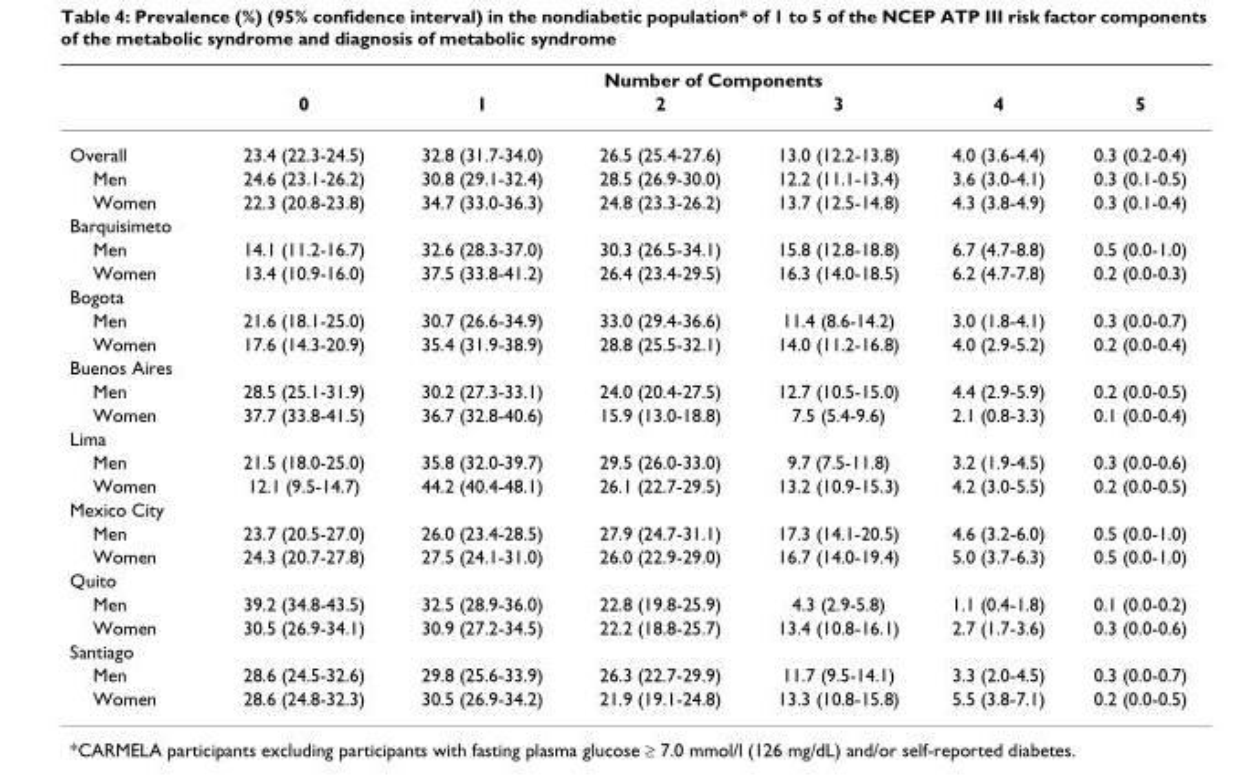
<table><thead><tr><td rowspan="2"></td><td colspan="6">Number of Components</td></tr><tr><td>0</td><td>1</td><td>2</td><td>3</td><td>4</td><td>5</td></tr></thead><tbody><tr><td>Overall</td><td>23.4 (22.3-24.5)</td><td>32.8 (31.7-34.0)</td><td>26.5 (25.4-27.6)</td><td>13.0 (12.2-13.8)</td><td>4.0 (3.6-4.4)</td><td>0.3 (0.2-0.4)</td></tr><tr><td>Men</td><td>24.6 (23.1-26.2)</td><td>30.8 (29.1-32.4)</td><td>28.5 (26.9-30.0)</td><td>12.2 (11.1-13.4)</td><td>3.6 (3.0-4.1)</td><td>0.3 (0.1-0.5)</td></tr><tr><td>Women</td><td>22.3 (20.8-23.8)</td><td>34.7 (33.0-36.3)</td><td>24.8 (23.3-26.2)</td><td>13.7 (12.5-14.8)</td><td>4.3 (3.8-4.9)</td><td>0.3 (0.1-0.4)</td></tr><tr><td colspan="7">Barquisimeto</td></tr><tr><td>Men</td><td>14.1 (11.2-16.7)</td><td>32.6 (28.3-37.0)</td><td>30.3 (26.5-34.1)</td><td>15.8 (12.8-18.8)</td><td>6.7 (4.7-8.8)</td><td>0.5 (0.0-1.0)</td></tr><tr><td>Women</td><td>13.4 (10.9-16.0)</td><td>37.5 (33.8-41.2)</td><td>26.4 (23.4-29.5)</td><td>16.3 (14.0-18.5)</td><td>6.2 (4.7-7.8)</td><td>0.2 (0.0-0.3)</td></tr><tr><td colspan="7">Bogota</td></tr><tr><td>Men</td><td>21.6 (18.1-25.0)</td><td>30.7 (26.6-34.9)</td><td>33.0 (29.4-36.6)</td><td>11.4 (8.6-14.2)</td><td>3.0 (1.8-4.1)</td><td>0.3 (0.0-0.7)</td></tr><tr><td>Women</td><td>17.6 (14.3-20.9)</td><td>35.4 (31.9-38.9)</td><td>28.8 (25.5-32.1)</td><td>14.0 (11.2-16.8)</td><td>4.0 (2.9-5.2)</td><td>0.2 (0.0-0.4)</td></tr><tr><td colspan="7">Buenos Aires</td></tr><tr><td>Men</td><td>28.5 (25.1-31.9)</td><td>30.2 (27.3-33.1)</td><td>24.0 (20.4-27.5)</td><td>12.7 (10.5-15.0)</td><td>4.4 (2.9-5.9)</td><td>0.2 (0.0-0.5)</td></tr><tr><td>Women</td><td>37.7 (33.8-41.5)</td><td>36.7 (32.8-40.6)</td><td>15.9 (13.0-18.8)</td><td>7.5 (5.4-9.6)</td><td>2.1 (0.8-3.3)</td><td>0.1 (0.0-0.4)</td></tr><tr><td colspan="7">Lima</td></tr><tr><td>Men</td><td>21.5 (18.0-25.0)</td><td>35.8 (32.0-39.7)</td><td>29.5 (26.0-33.0)</td><td>9.7 (7.5-11.8)</td><td>3.2 (1.9-4.5)</td><td>0.3 (0.0-0.6)</td></tr><tr><td>Women</td><td>12.1 (9.5-14.7)</td><td>44.2 (40.4-48.1)</td><td>26.1 (22.7-29.5)</td><td>13.2 (10.9-15.3)</td><td>4.2 (3.0-5.5)</td><td>0.2 (0.0-0.5)</td></tr><tr><td colspan="7">Mexico City</td></tr><tr><td>Men</td><td>23.7 (20.5-27.0)</td><td>26.0 (23.4-28.5)</td><td>27.9 (24.7-31.1)</td><td>17.3 (14.1-20.5)</td><td>4.6 (3.2-6.0)</td><td>0.5 (0.0-1.0)</td></tr><tr><td>Women</td><td>24.3 (20.7-27.8)</td><td>27.5 (24.1-31.0)</td><td>26.0 (22.9-29.0)</td><td>16.7 (14.0-19.4)</td><td>5.0 (3.7-6.3)</td><td>0.5 (0.0-1.0)</td></tr><tr><td colspan="7">Quito</td></tr><tr><td>Men</td><td>39.2 (34.8-43.5)</td><td>32.5 (28.9-36.0)</td><td>22.8 (19.8-25.9)</td><td>4.3 (2.9-5.8)</td><td>1.1 (0.4-1.8)</td><td>0.1 (0.0-0.2)</td></tr><tr><td>Women</td><td>30.5 (26.9-34.1)</td><td>30.9 (27.2-34.5)</td><td>22.2 (18.8-25.7)</td><td>13.4 (10.8-16.1)</td><td>2.7 (1.7-3.6)</td><td>0.3 (0.0-0.6)</td></tr><tr><td colspan="7">Santiago</td></tr><tr><td>Men</td><td>28.6 (24.5-32.6)</td><td>29.8 (25.6-33.9)</td><td>26.3 (22.7-29.9)</td><td>11.7 (9.5-14.1)</td><td>3.3 (2.0-4.5)</td><td>0.3 (0.0-0.7)</td></tr><tr><td>Women</td><td>28.6 (24.8-32.3)</td><td>30.5 (26.9-34.2)</td><td>21.9 (19.1-24.8)</td><td>13.3 (10.8-15.8)</td><td>5.5 (3.8-7.1)</td><td>0.2 (0.0-0.5)</td></tr></tbody></table>